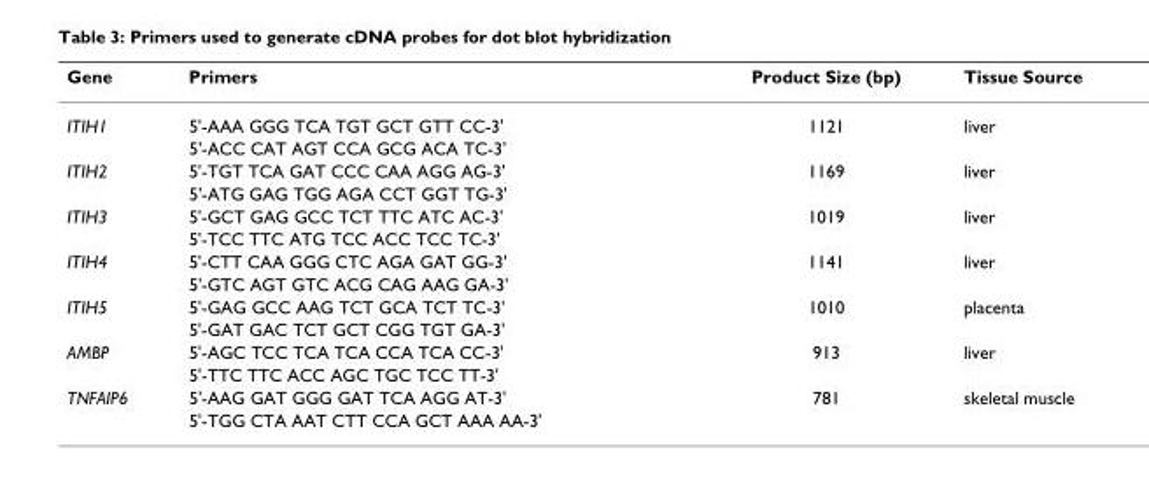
<table><thead><tr><td>Gene</td><td>Primers</td><td>Product Size (bp)</td><td>Tissue Source</td></tr></thead><tbody><tr><td rowspan="2">ITIH1</td><td>5&#x27;-AAA GGG TCA TGT GCT GTT CC-3&#x27;</td><td>1121</td><td>liver</td></tr><tr><td>5&#x27;-ACC CAT AGT CCA GCG ACA TC-3&#x27;</td><td></td><td></td></tr><tr><td rowspan="2">ITIH2</td><td>5&#x27;-TGT TCA GAT CCC CAA AGG AG-3&#x27;</td><td>1169</td><td>liver</td></tr><tr><td>5&#x27;-ATG GAG TGG AGA CCT GGT TG-3&#x27;</td><td></td><td></td></tr><tr><td rowspan="2">ITIH3</td><td>5&#x27;-GCT GAG GCC TCT TTC ATC AC-3&#x27;</td><td>1019</td><td>liver</td></tr><tr><td>5&#x27;-TCC TTC ATG TCC ACC TCC TC-3&#x27;</td><td></td><td></td></tr><tr><td rowspan="2">ITIH4</td><td>5&#x27;-CTT CAA GGG CTC AGA GAT GG-3&#x27;</td><td>1141</td><td>liver</td></tr><tr><td>5&#x27;-GTC AGT GTC ACG CAG AAG GA-3&#x27;</td><td></td><td></td></tr><tr><td rowspan="2">ITIH5</td><td>5&#x27;-GAG GCC AAG TCT GCA TCT TC-3&#x27;</td><td>1010</td><td>placenta</td></tr><tr><td>5&#x27;-GAT GAC TCT GCT CGG TGT GA-3&#x27;</td><td></td><td></td></tr><tr><td rowspan="2">AMBP</td><td>5&#x27;-AGC TCC TCA TCA CCA TCA CC-3&#x27;</td><td>913</td><td>liver</td></tr><tr><td>5&#x27;-TTC TTC ACC AGC TGC TCC TT-3&#x27;</td><td></td><td></td></tr><tr><td rowspan="2">TNFAIP6</td><td>5&#x27;-AAG GAT GGG GAT TCA AGG AT-3&#x27;</td><td>781</td><td>skeletal muscle</td></tr><tr><td>5&#x27;-TGG CTA AAT CTT CCA GCT AAA AA-3&#x27;</td><td></td><td></td></tr></tbody></table>